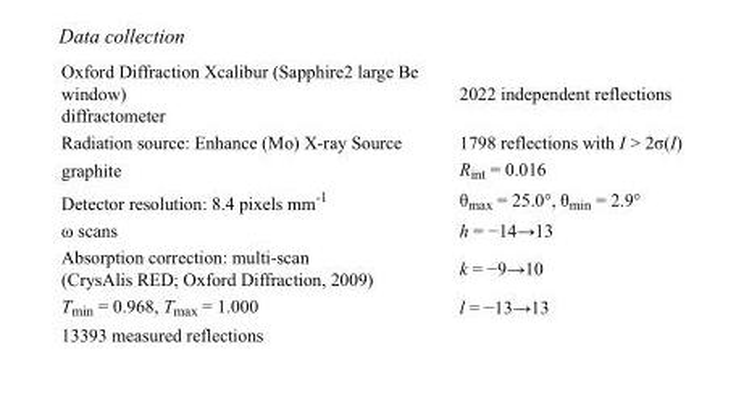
<table><tbody><tr><td>Oxford Diffraction Xcalibur (Sapphire2 large Be window) diffractometer</td><td>2022 independent reflections</td></tr><tr><td>Radiation source: Enhance (Mo) X-ray Source</td><td>1798 reflections with I &gt; 2σ(I)</td></tr><tr><td>graphite</td><td>R<sub>int</sub> = 0.016</td></tr><tr><td>Detector resolution: 8.4 pixels mm<sup>-1</sup></td><td>θ<sub>max</sub> = 25.0°, θ<sub>min</sub> = 2.9°</td></tr><tr><td>ω scans</td><td>h = −14→13</td></tr><tr><td>Absorption correction: multi-scan (CrysAlis RED; Oxford Diffraction, 2009)</td><td>k = −9→10</td></tr><tr><td>T<sub>min</sub> = 0.968, T<sub>max</sub> = 1.000</td><td>l = −13→13</td></tr><tr><td>13393 measured reflections</td><td></td></tr></tbody></table>